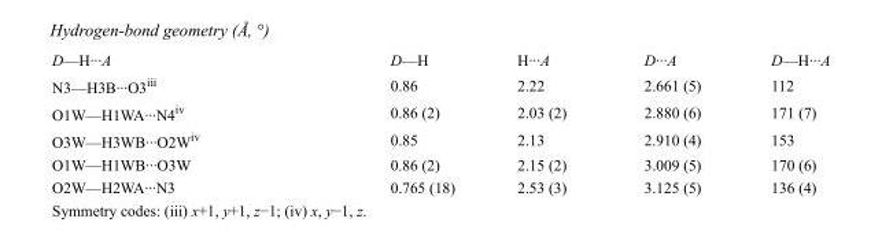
<table><tbody><tr><td>D—H···A</td><td>D—H</td><td>H···A</td><td>D···A</td><td>D—H···A</td></tr><tr><td>N3—H3B···O3<sup>iii</sup></td><td>0.86</td><td>2.22</td><td>2.661 (5)</td><td>112</td></tr><tr><td>O1W—H1WA···N4<sup>iv</sup></td><td>0.86 (2)</td><td>2.03 (2)</td><td>2.880 (6)</td><td>171 (7)</td></tr><tr><td>O3W—H3WB···O2W<sup>iv</sup></td><td>0.85</td><td>2.13</td><td>2.910 (4)</td><td>153</td></tr><tr><td>O1W—H1WB···O3W</td><td>0.86 (2)</td><td>2.15 (2)</td><td>3.009 (5)</td><td>170 (6)</td></tr><tr><td>O2W—H2WA···N3</td><td>0.765 (18)</td><td>2.53 (3)</td><td>3.125 (5)</td><td>136 (4)</td></tr></tbody></table>